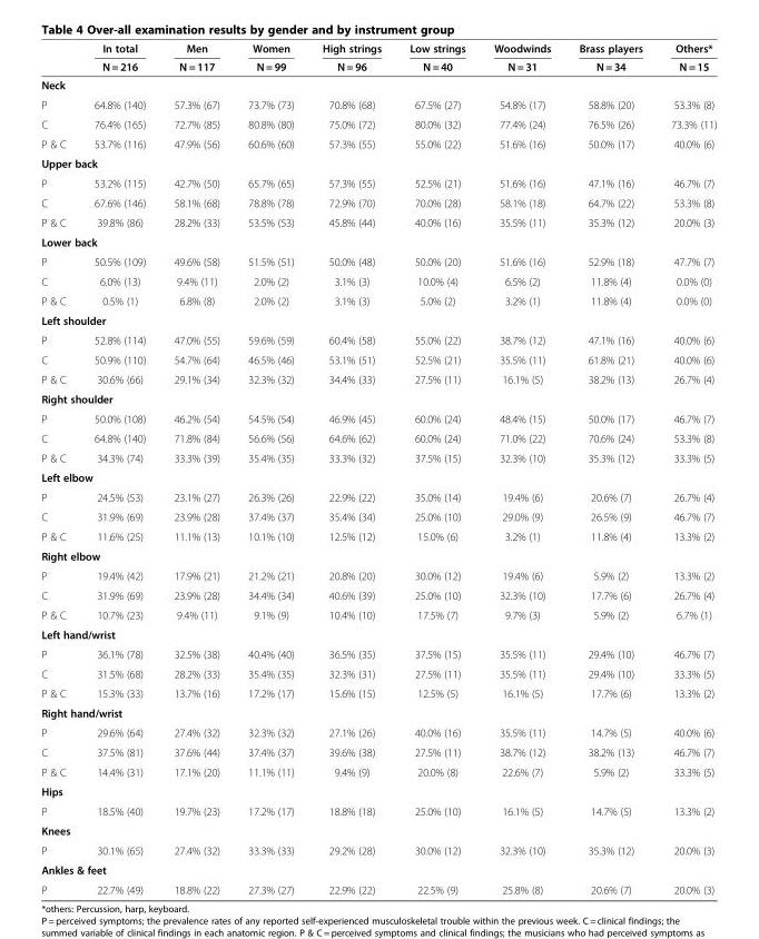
<table><thead><tr><td rowspan="2"></td><td rowspan="2">In total N = 216</td><td rowspan="2">Men N = 117</td><td rowspan="2">Women N = 99</td><td rowspan="2">High strings N = 96</td><td rowspan="2">Low strings N = 40</td><td rowspan="2">Woodwinds N = 31</td><td rowspan="2">Brass players N = 34</td><td rowspan="2">Others* N = 15</td></tr><tr></tr></thead><tbody><tr><td colspan="9">Neck</td></tr><tr><td>P</td><td>64.8% (140)</td><td>57.3% (67)</td><td>73.7% (73)</td><td>70.8% (68)</td><td>67.5% (27)</td><td>54.8% (17)</td><td>58.8% (20)</td><td>53.3% (8)</td></tr><tr><td>C</td><td>76.4% (165)</td><td>72.7% (85)</td><td>80.8% (80)</td><td>75.0% (72)</td><td>80.0% (32)</td><td>77.4% (24)</td><td>76.5% (26)</td><td>73.3% (11)</td></tr><tr><td>P &amp; C</td><td>53.7% (116)</td><td>47.9% (56)</td><td>60.6% (60)</td><td>57.3% (55)</td><td>55.0% (22)</td><td>51.6% (16)</td><td>50.0% (17)</td><td>40.0% (6)</td></tr><tr><td colspan="9">Upper back</td></tr><tr><td>P</td><td>53.2% (115)</td><td>42.7% (50)</td><td>65.7% (65)</td><td>57.3% (55)</td><td>52.5% (21)</td><td>51.6% (16)</td><td>47.1% (16)</td><td>46.7% (7)</td></tr><tr><td>C</td><td>67.6% (146)</td><td>58.1% (68)</td><td>78.8% (78)</td><td>72.9% (70)</td><td>70.0% (28)</td><td>58.1% (18)</td><td>64.7% (22)</td><td>53.3% (8)</td></tr><tr><td>P &amp; C</td><td>39.8% (86)</td><td>28.2% (33)</td><td>53.5% (53)</td><td>45.8% (44)</td><td>40.0% (16)</td><td>35.5% (11)</td><td>35.3% (12)</td><td>20.0% (3)</td></tr><tr><td colspan="9">Lower back</td></tr><tr><td>P</td><td>50.5% (109)</td><td>49.6% (58)</td><td>51.5% (51)</td><td>50.0% (48)</td><td>50.0% (20)</td><td>51.6% (16)</td><td>52.9% (18)</td><td>47.7% (7)</td></tr><tr><td>C</td><td>6.0% (13)</td><td>9.4% (11)</td><td>2.0% (2)</td><td>3.1% (3)</td><td>10.0% (4)</td><td>6.5% (2)</td><td>11.8% (4)</td><td>0.0% (0)</td></tr><tr><td>P &amp; C</td><td>0.5% (1)</td><td>6.8% (8)</td><td>2.0% (2)</td><td>3.1% (3)</td><td>5.0% (2)</td><td>3.2% (1)</td><td>11.8% (4)</td><td>0.0% (0)</td></tr><tr><td colspan="9">Left shoulder</td></tr><tr><td>P</td><td>52.8% (114)</td><td>47.0% (55)</td><td>59.6% (59)</td><td>60.4% (58)</td><td>55.0% (22)</td><td>38.7% (12)</td><td>47.1% (16)</td><td>40.0% (6)</td></tr><tr><td>C</td><td>50.9% (110)</td><td>54.7% (64)</td><td>46.5% (46)</td><td>53.1% (51)</td><td>52.5% (21)</td><td>35.5% (11)</td><td>61.8% (21)</td><td>40.0% (6)</td></tr><tr><td>P &amp; C</td><td>30.6% (66)</td><td>29.1% (34)</td><td>32.3% (32)</td><td>34.4% (33)</td><td>27.5% (11)</td><td>16.1% (5)</td><td>38.2% (13)</td><td>26.7% (4)</td></tr><tr><td colspan="9">Right shoulder</td></tr><tr><td>P</td><td>50.0% (108)</td><td>46.2% (54)</td><td>54.5% (54)</td><td>46.9% (45)</td><td>60.0% (24)</td><td>48.4% (15)</td><td>50.0% (17)</td><td>46.7% (7)</td></tr><tr><td>C</td><td>64.8% (140)</td><td>71.8% (84)</td><td>56.6% (56)</td><td>64.6% (62)</td><td>60.0% (24)</td><td>71.0% (22)</td><td>70.6% (24)</td><td>53.3% (8)</td></tr><tr><td>P &amp; C</td><td>34.3% (74)</td><td>33.3% (39)</td><td>35.4% (35)</td><td>33.3% (32)</td><td>37.5% (15)</td><td>32.3% (10)</td><td>35.3% (12)</td><td>33.3% (5)</td></tr><tr><td colspan="9">Left elbow</td></tr><tr><td>P</td><td>24.5% (53)</td><td>23.1% (27)</td><td>26.3% (26)</td><td>22.9% (22)</td><td>35.0% (14)</td><td>19.4% (6)</td><td>20.6% (7)</td><td>26.7% (4)</td></tr><tr><td>C</td><td>31.9% (69)</td><td>23.9% (28)</td><td>37.4% (37)</td><td>35.4% (34)</td><td>25.0% (10)</td><td>29.0% (9)</td><td>26.5% (9)</td><td>46.7% (7)</td></tr><tr><td>P &amp; C</td><td>11.6% (25)</td><td>11.1% (13)</td><td>10.1% (10)</td><td>12.5% (12)</td><td>15.0% (6)</td><td>3.2% (1)</td><td>11.8% (4)</td><td>13.3% (2)</td></tr><tr><td colspan="9">Right elbow</td></tr><tr><td>P</td><td>19.4% (42)</td><td>17.9% (21)</td><td>21.2% (21)</td><td>20.8% (20)</td><td>30.0% (12)</td><td>19.4% (6)</td><td>5.9% (2)</td><td>13.3% (2)</td></tr><tr><td>C</td><td>31.9% (69)</td><td>23.9% (28)</td><td>34.4% (34)</td><td>40.6% (39)</td><td>25.0% (10)</td><td>32.3% (10)</td><td>17.7% (6)</td><td>26.7% (4)</td></tr><tr><td>P &amp; C</td><td>10.7% (23)</td><td>9.4% (11)</td><td>9.1% (9)</td><td>10.4% (10)</td><td>17.5% (7)</td><td>9.7% (3)</td><td>5.9% (2)</td><td>6.7% (1)</td></tr><tr><td colspan="9">Left hand/wrist</td></tr><tr><td>P</td><td>36.1% (78)</td><td>32.5% (38)</td><td>40.4% (40)</td><td>36.5% (35)</td><td>37.5% (15)</td><td>35.5% (11)</td><td>29.4% (10)</td><td>46.7% (7)</td></tr><tr><td>C</td><td>31.5% (68)</td><td>28.2% (33)</td><td>35.4% (35)</td><td>32.3% (31)</td><td>27.5% (11)</td><td>35.5% (11)</td><td>29.4% (10)</td><td>33.3% (5)</td></tr><tr><td>P &amp; C</td><td>15.3% (33)</td><td>13.7% (16)</td><td>17.2% (17)</td><td>15.6% (15)</td><td>12.5% (5)</td><td>16.1% (5)</td><td>17.7% (6)</td><td>13.3% (2)</td></tr><tr><td colspan="9">Right hand/wrist</td></tr><tr><td>P</td><td>29.6% (64)</td><td>27.4% (32)</td><td>32.3% (32)</td><td>27.1% (26)</td><td>40.0% (16)</td><td>35.5% (11)</td><td>14.7% (5)</td><td>40.0% (6)</td></tr><tr><td>C</td><td>37.5% (81)</td><td>37.6% (44)</td><td>37.4% (37)</td><td>39.6% (38)</td><td>27.5% (11)</td><td>38.7% (12)</td><td>38.2% (13)</td><td>46.7% (7)</td></tr><tr><td>P &amp; C</td><td>14.4% (31)</td><td>17.1% (20)</td><td>11.1% (11)</td><td>9.4% (9)</td><td>20.0% (8)</td><td>22.6% (7)</td><td>5.9% (2)</td><td>33.3% (5)</td></tr><tr><td colspan="9">Hips</td></tr><tr><td>P</td><td>18.5% (40)</td><td>19.7% (23)</td><td>17.2% (17)</td><td>18.8% (18)</td><td>25.0% (10)</td><td>16.1% (5)</td><td>14.7% (5)</td><td>13.3% (2)</td></tr><tr><td colspan="9">Knees</td></tr><tr><td>P</td><td>30.1% (65)</td><td>27.4% (32)</td><td>33.3% (33)</td><td>29.2% (28)</td><td>30.0% (12)</td><td>32.3% (10)</td><td>35.3% (12)</td><td>20.0% (3)</td></tr><tr><td colspan="9">Ankles &amp; feet</td></tr><tr><td>P</td><td>22.7% (49)</td><td>18.8% (22)</td><td>27.3% (27)</td><td>22.9% (22)</td><td>22.5% (9)</td><td>25.8% (8)</td><td>20.6% (7)</td><td>20.0% (3)</td></tr></tbody></table>